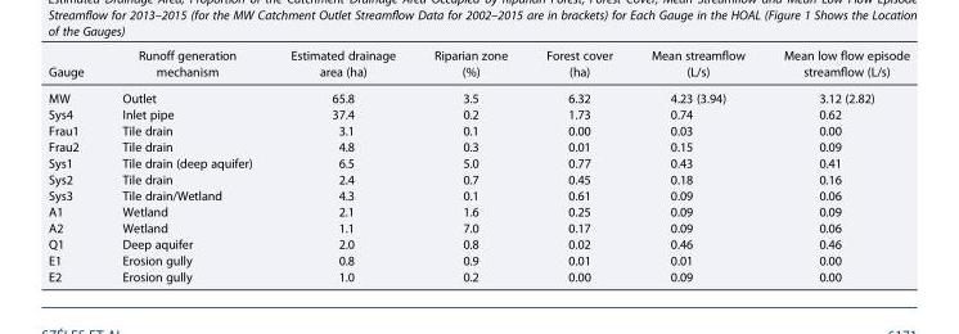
<table><thead><tr><td>Gauge</td><td>Runoff generation mechanism</td><td>Estimated drainage area (ha)</td><td>Riparian zone (%)</td><td>Forest cover (ha)</td><td>Mean streamflow (L/s)</td><td>Mean low flow episode streamflow (L/s)</td></tr></thead><tbody><tr><td>MW</td><td>Outlet</td><td>65.8</td><td>3.5</td><td>6.32</td><td>4.23 (3.94)</td><td>3.12 (2.82)</td></tr><tr><td>Sys4</td><td>Inlet pipe</td><td>37.4</td><td>0.2</td><td>1.73</td><td>0.74</td><td>0.62</td></tr><tr><td>Frau1</td><td>Tile drain</td><td>3.1</td><td>0.1</td><td>0.00</td><td>0.03</td><td>0.00</td></tr><tr><td>Frau2</td><td>Tile drain</td><td>4.8</td><td>0.3</td><td>0.01</td><td>0.15</td><td>0.09</td></tr><tr><td>Sys1</td><td>Tile drain (deep aquifer)</td><td>6.5</td><td>5.0</td><td>0.77</td><td>0.43</td><td>0.41</td></tr><tr><td>Sys2</td><td>Tile drain</td><td>2.4</td><td>0.7</td><td>0.45</td><td>0.18</td><td>0.16</td></tr><tr><td>Sys3</td><td>Tile drain/Wetland</td><td>4.3</td><td>0.1</td><td>0.61</td><td>0.09</td><td>0.06</td></tr><tr><td>A1</td><td>Wetland</td><td>2.1</td><td>1.6</td><td>0.25</td><td>0.09</td><td>0.09</td></tr><tr><td>A2</td><td>Wetland</td><td>1.1</td><td>7.0</td><td>0.17</td><td>0.09</td><td>0.06</td></tr><tr><td>Q1</td><td>Deep aquifer</td><td>2.0</td><td>0.8</td><td>0.02</td><td>0.46</td><td>0.46</td></tr><tr><td>E1</td><td>Erosion gully</td><td>0.8</td><td>0.9</td><td>0.01</td><td>0.01</td><td>0.00</td></tr><tr><td>E2</td><td>Erosion gully</td><td>1.0</td><td>0.2</td><td>0.00</td><td>0.09</td><td>0.00</td></tr></tbody></table>